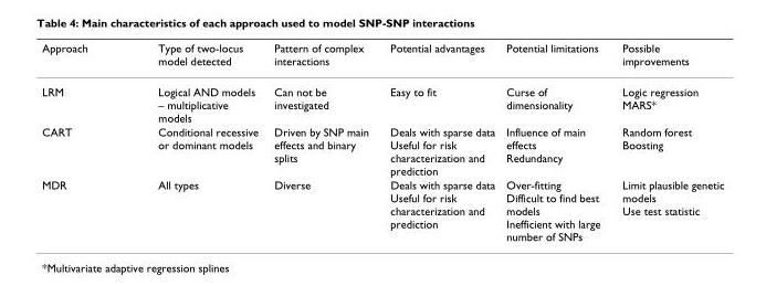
<table><thead><tr><td>Approach</td><td>Type of two-locus model detected</td><td>Pattern of complex interactions</td><td>Potential advantages</td><td>Potential limitations</td><td>Possible improvements</td></tr></thead><tbody><tr><td>LRM</td><td>Logical AND models – multiplicative models</td><td>Can not be investigated</td><td>Easy to fit</td><td>Curse of dimensionality</td><td>Logic regression MARS*</td></tr><tr><td>CART</td><td>Conditional recessive or dominant models</td><td>Driven by SNP main effects and binary splits</td><td>Deals with sparse data Useful for risk characterization and prediction</td><td>Influence of main effects Redundancy</td><td>Random forest Boosting</td></tr><tr><td>MDR</td><td>All types</td><td>Diverse</td><td>Deals with sparse data Useful for risk characterization and prediction</td><td>Over-fitting Difficult to find best models Inefficient with large number of SNPs</td><td>Limit plausible genetic models Use test statistic</td></tr></tbody></table>